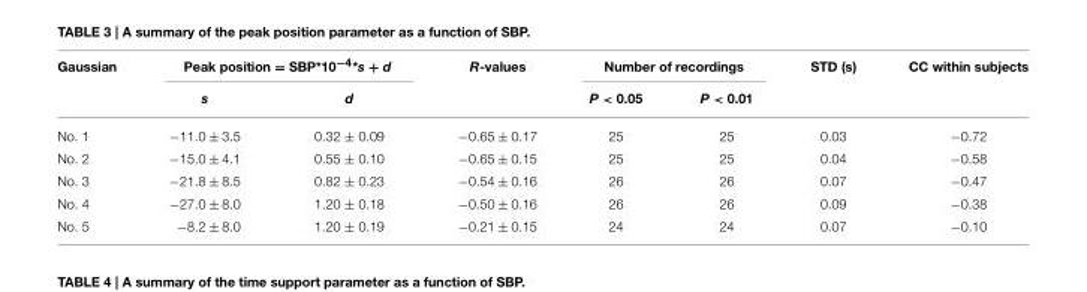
<table><thead><tr><td rowspan="2">Gaussian</td><td colspan="2">Peak position = SBP*10<sup>−4*</sup>s + d</td><td rowspan="2">R-values</td><td colspan="2">Number of recordings</td><td rowspan="2">STD (s)</td><td rowspan="2">CC within subjects</td></tr><tr><td>s</td><td>d</td><td>P &lt; 0.05</td><td>P &lt; 0.01</td></tr></thead><tbody><tr><td>No. 1</td><td>−11.0 ± 3.5</td><td>0.32 ± 0.09</td><td>−0.65 ± 0.17</td><td>25</td><td>25</td><td>0.03</td><td>−0.72</td></tr><tr><td>No. 2</td><td>−15.0 ± 4.1</td><td>0.55 ± 0.10</td><td>−0.65 ± 0.15</td><td>25</td><td>25</td><td>0.04</td><td>−0.58</td></tr><tr><td>No. 3</td><td>−21.8 ± 8.5</td><td>0.82 ± 0.23</td><td>−0.54 ± 0.16</td><td>26</td><td>26</td><td>0.07</td><td>−0.47</td></tr><tr><td>No. 4</td><td>−27.0 ± 8.0</td><td>1.20 ± 0.18</td><td>−0.50 ± 0.16</td><td>26</td><td>26</td><td>0.09</td><td>−0.38</td></tr><tr><td>No. 5</td><td>−8.2 ± 8.0</td><td>1.20 ± 0.19</td><td>−0.21 ± 0.15</td><td>24</td><td>24</td><td>0.07</td><td>−0.10</td></tr></tbody></table>